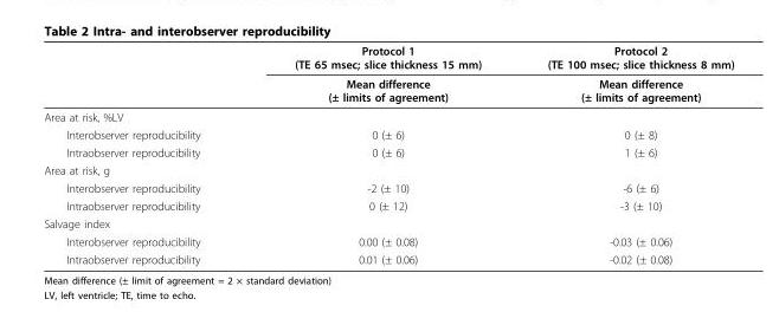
<table><thead><tr><td rowspan="2"></td><td rowspan="2">Protocol 1 (TE 65 msec; slice thickness 15 mm) Mean difference (± limits of agreement)</td><td rowspan="2">Protocol 2 (TE 100 msec; slice thickness 8 mm) Mean difference (± limits of agreement)</td></tr><tr></tr></thead><tbody><tr><td colspan="3">Area at risk, %LV</td></tr><tr><td>Interobserver reproducibility</td><td>0 (± 6)</td><td>0 (± 8)</td></tr><tr><td>Intraobserver reproducibility</td><td>0 (± 6)</td><td>1 (± 6)</td></tr><tr><td colspan="3">Area at risk, g</td></tr><tr><td>Interobserver reproducibility</td><td>-2 (± 10)</td><td>-6 (± 6)</td></tr><tr><td>Intraobserver reproducibility</td><td>0 (± 12)</td><td>-3 (± 10)</td></tr><tr><td colspan="3">Salvage index</td></tr><tr><td>Interobserver reproducibility</td><td>0.00 (± 0.08)</td><td>-0.03 (± 0.06)</td></tr><tr><td>Intraobserver reproducibility</td><td>0.01 (± 0.06)</td><td>-0.02 (± 0.08)</td></tr></tbody></table>